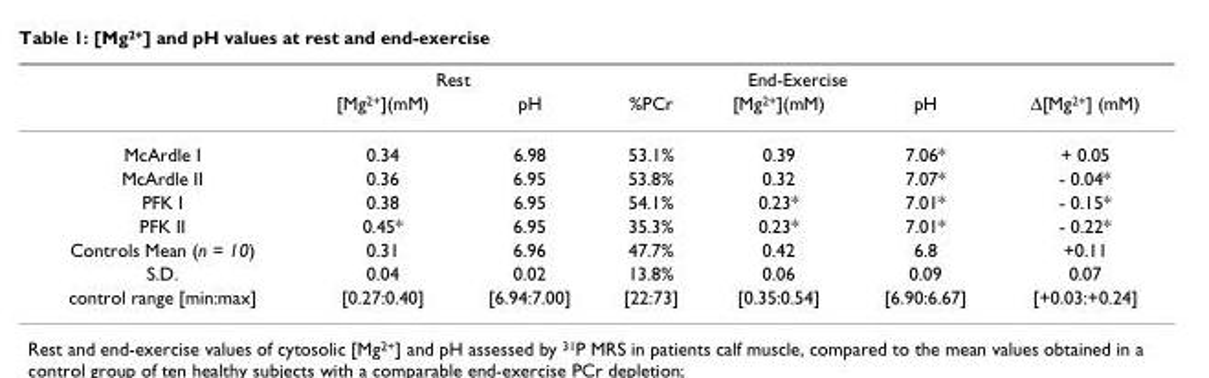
<table><thead><tr><td rowspan="2"></td><td colspan="2">Rest</td><td colspan="3">End-Exercise</td><td rowspan="2">∆[Mg2+] (mM)</td></tr><tr><td>[Mg<sup>2+</sup>](mM)</td><td>pH</td><td>%PCr</td><td>[Mg<sup>2+</sup>](mM)</td><td>pH</td></tr></thead><tbody><tr><td>McArdle I</td><td>0.34</td><td>6.98</td><td>53.1%</td><td>0.39</td><td>7.06*</td><td>+ 0.05</td></tr><tr><td>McArdle II</td><td>0.36</td><td>6.95</td><td>53.8%</td><td>0.32</td><td>7.07*</td><td>- 0.04*</td></tr><tr><td>PFK I</td><td>0.38</td><td>6.95</td><td>54.1%</td><td>0.23*</td><td>7.01*</td><td>- 0.15*</td></tr><tr><td>PFK II</td><td>0.45*</td><td>6.95</td><td>35.3%</td><td>0.23*</td><td>7.01*</td><td>- 0.22*</td></tr><tr><td>Controls Mean (n = 10)</td><td>0.31</td><td>6.96</td><td>47.7%</td><td>0.42</td><td>6.8</td><td>+0.11</td></tr><tr><td>S.D.</td><td>0.04</td><td>0.02</td><td>13.8%</td><td>0.06</td><td>0.09</td><td>0.07</td></tr><tr><td>control range [min:max]</td><td>[0.27:0.40]</td><td>[6.94:7.00]</td><td>[22:73]</td><td>[0.35:0.54]</td><td>[6.90:6.67]</td><td>[+0.03:+0.24]</td></tr></tbody></table>